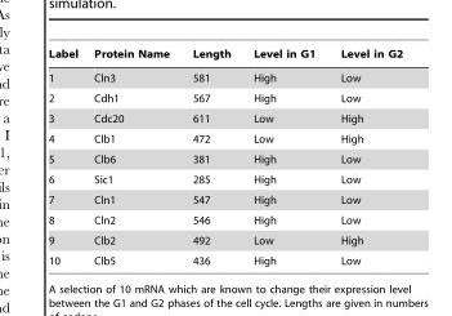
<table><thead><tr><td>Label</td><td>Protein Name</td><td>Length</td><td>Level in G1</td><td>Level in G2</td></tr></thead><tbody><tr><td>1</td><td>Cln3</td><td>581</td><td>High</td><td>Low</td></tr><tr><td>2</td><td>Cdh1</td><td>567</td><td>High</td><td>Low</td></tr><tr><td>3</td><td>Cdc20</td><td>611</td><td>Low</td><td>High</td></tr><tr><td>4</td><td>Clb1</td><td>472</td><td>Low</td><td>High</td></tr><tr><td>5</td><td>Clb6</td><td>381</td><td>High</td><td>Low</td></tr><tr><td>6</td><td>Sic1</td><td>285</td><td>High</td><td>Low</td></tr><tr><td>7</td><td>Cln1</td><td>547</td><td>High</td><td>Low</td></tr><tr><td>8</td><td>Cln2</td><td>546</td><td>High</td><td>Low</td></tr><tr><td>9</td><td>Clb2</td><td>492</td><td>Low</td><td>High</td></tr><tr><td>10</td><td>Clb5</td><td>436</td><td>High</td><td>Low</td></tr></tbody></table>